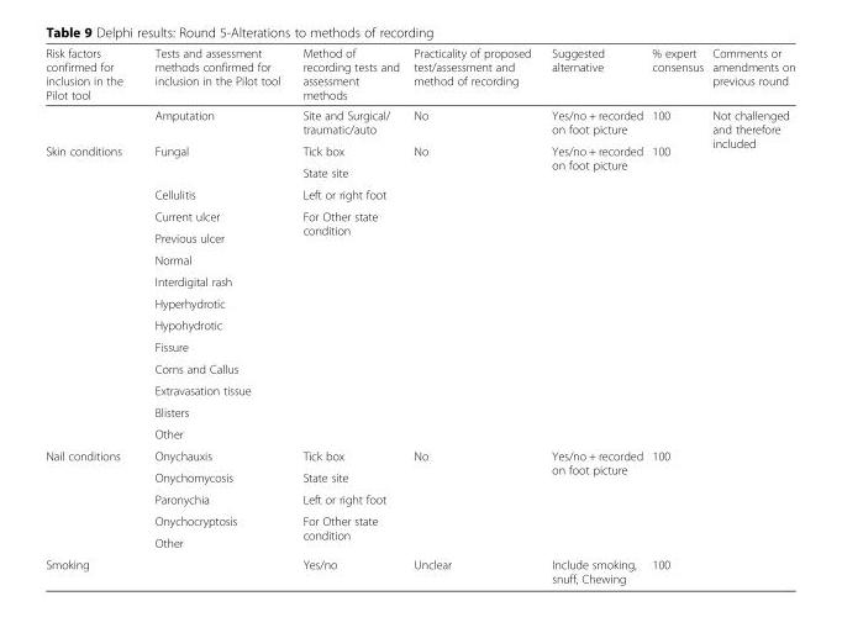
<table><thead><tr><td>Risk factors confirmed for inclusion in the Pilot tool</td><td>Tests and assessment methods confirmed for inclusion in the Pilot tool</td><td>Method of recording tests and assessment methods</td><td>Practicality of proposed test/assessment and method of recording</td><td>Suggested alternative</td><td>% expert consensus</td><td>Comments or amendments on previous round</td></tr></thead><tbody><tr><td></td><td>Amputation</td><td>Site and Surgical/ traumatic/auto</td><td>No</td><td>Yes/no + recorded on foot picture</td><td>100</td><td rowspan="21">Not challenged and therefore included</td></tr><tr><td rowspan="14">Skin conditions</td><td rowspan="2">Fungal</td><td>Tick box</td><td rowspan="14">No</td><td rowspan="14">Yes/no + recorded on foot picture</td><td rowspan="14">100</td></tr><tr><td>State site</td></tr><tr><td>Cellulitis</td><td>Left or right foot</td></tr><tr><td>Current ulcer</td><td rowspan="11">For Other state condition</td></tr><tr><td>Previous ulcer</td></tr><tr><td>Normal</td></tr><tr><td>Interdigital rash</td></tr><tr><td>Hyperhydrotic</td></tr><tr><td>Hypohydrotic</td></tr><tr><td>Fissure</td></tr><tr><td>Corns and Callus</td></tr><tr><td>Extravasation tissue</td></tr><tr><td>Blisters</td></tr><tr><td>Other</td></tr><tr><td rowspan="5">Nail conditions</td><td>Onychauxis</td><td>Tick box</td><td rowspan="5">No</td><td rowspan="5">Yes/no + recorded on foot picture</td><td rowspan="5">100</td></tr><tr><td>Onychomycosis</td><td>State site</td></tr><tr><td>Paronychia</td><td>Left or right foot</td></tr><tr><td>Onychocryptosis</td><td rowspan="2">For Other state condition</td></tr><tr><td>Other</td></tr><tr><td>Smoking</td><td></td><td>Yes/no</td><td>Unclear</td><td>Include smoking, snuff, Chewing</td><td>100</td></tr></tbody></table>